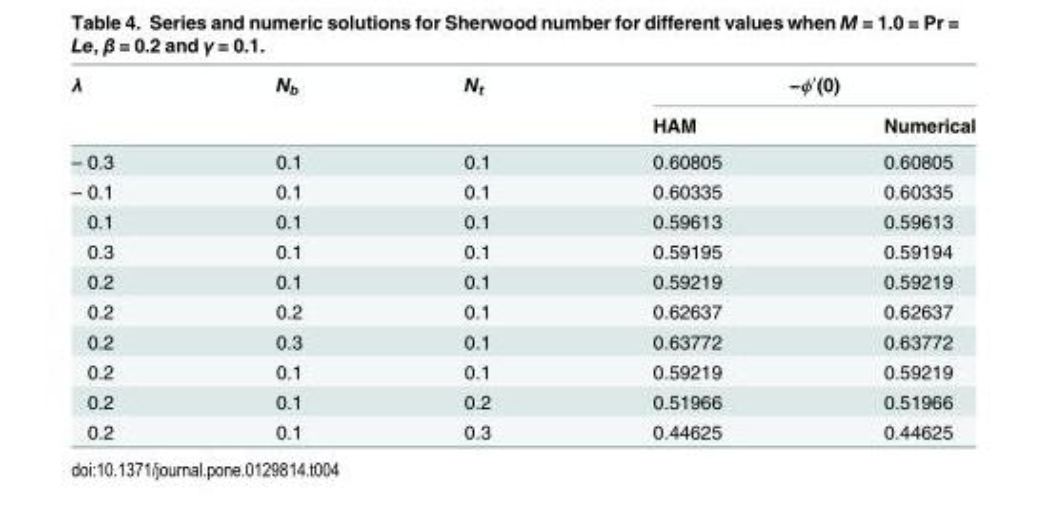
<table><thead><tr><td rowspan="2">λ</td><td rowspan="2">N<sub>b</sub></td><td rowspan="2">N<sub>t</sub></td><td colspan="2">−ϕ′(0)</td></tr><tr><td>HAM</td><td>Numerical</td></tr></thead><tbody><tr><td>– 0.3</td><td>0.1</td><td>0.1</td><td>0.60805</td><td>0.60805</td></tr><tr><td>– 0.1</td><td>0.1</td><td>0.1</td><td>0.60335</td><td>0.60335</td></tr><tr><td>0.1</td><td>0.1</td><td>0.1</td><td>0.59613</td><td>0.59613</td></tr><tr><td>0.3</td><td>0.1</td><td>0.1</td><td>0.59195</td><td>0.59194</td></tr><tr><td>0.2</td><td>0.1</td><td>0.1</td><td>0.59219</td><td>0.59219</td></tr><tr><td>0.2</td><td>0.2</td><td>0.1</td><td>0.62637</td><td>0.62637</td></tr><tr><td>0.2</td><td>0.3</td><td>0.1</td><td>0.63772</td><td>0.63772</td></tr><tr><td>0.2</td><td>0.1</td><td>0.1</td><td>0.59219</td><td>0.59219</td></tr><tr><td>0.2</td><td>0.1</td><td>0.2</td><td>0.51966</td><td>0.51966</td></tr><tr><td>0.2</td><td>0.1</td><td>0.3</td><td>0.44625</td><td>0.44625</td></tr></tbody></table>